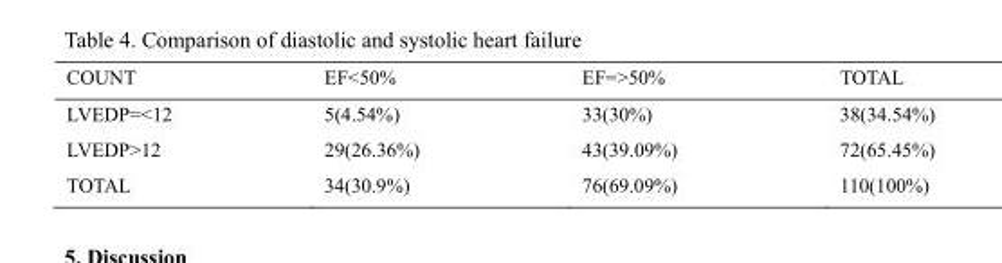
<table><thead><tr><td>COUNT</td><td>EF&lt;50%</td><td>EF=&gt;50%</td><td>TOTAL</td></tr></thead><tbody><tr><td>LVEDP=&lt;12</td><td>5(4.54%)</td><td>33(30%)</td><td>38(34.54%)</td></tr><tr><td>LVEDP&gt;12</td><td>29(26.36%)</td><td>43(39.09%)</td><td>72(65.45%)</td></tr><tr><td>TOTAL</td><td>34(30.9%)</td><td>76(69.09%)</td><td>110(100%)</td></tr></tbody></table>